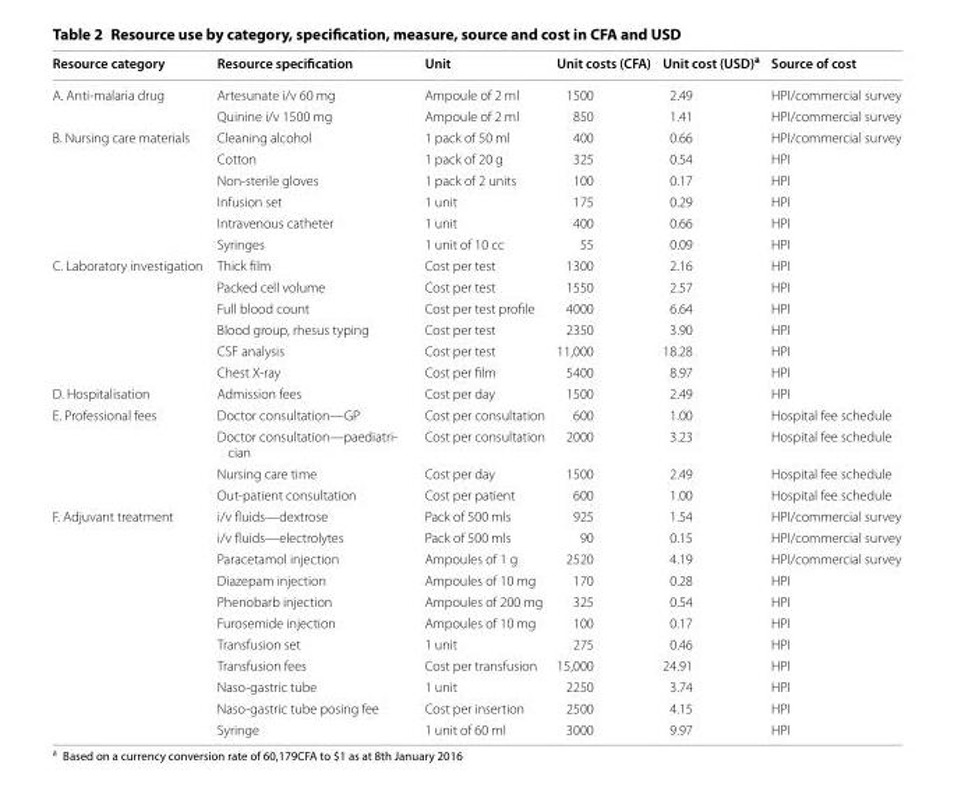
<table><thead><tr><td>Resource category</td><td>Resource specification</td><td>Unit</td><td>Unit costs (CFA)</td><td>Unit cost (USD)<sup>a</sup></td><td>Source of cost</td></tr></thead><tbody><tr><td rowspan="2">A. Anti-malaria drug</td><td>Artesunate i/v 60 mg</td><td>Ampoule of 2 ml</td><td>1500</td><td>2.49</td><td>HPI/commercial survey</td></tr><tr><td>Quinine i/v 1500 mg</td><td>Ampoule of 2 ml</td><td>850</td><td>1.41</td><td>HPI/commercial survey</td></tr><tr><td rowspan="6">B. Nursing care materials</td><td>Cleaning alcohol</td><td>1 pack of 50 ml</td><td>400</td><td>0.66</td><td>HPI/commercial survey</td></tr><tr><td>Cotton</td><td>1 pack of 20 g</td><td>325</td><td>0.54</td><td>HPI</td></tr><tr><td>Non-sterile gloves</td><td>1 pack of 2 units</td><td>100</td><td>0.17</td><td>HPI</td></tr><tr><td>Infusion set</td><td>1 unit</td><td>175</td><td>0.29</td><td>HPI</td></tr><tr><td>Intravenous catheter</td><td>1 unit</td><td>400</td><td>0.66</td><td>HPI</td></tr><tr><td>Syringes</td><td>1 unit of 10 cc</td><td>55</td><td>0.09</td><td>HPI</td></tr><tr><td rowspan="6">C. Laboratory investigation</td><td>Thick film</td><td>Cost per test</td><td>1300</td><td>2.16</td><td>HPI</td></tr><tr><td>Packed cell volume</td><td>Cost per test</td><td>1550</td><td>2.57</td><td>HPI</td></tr><tr><td>Full blood count</td><td>Cost per test profile</td><td>4000</td><td>6.64</td><td>HPI</td></tr><tr><td>Blood group, rhesus typing</td><td>Cost per test</td><td>2350</td><td>3.90</td><td>HPI</td></tr><tr><td>CSF analysis</td><td>Cost per test</td><td>11,000</td><td>18.28</td><td>HPI</td></tr><tr><td>Chest X-ray</td><td>Cost per film</td><td>5400</td><td>8.97</td><td>HPI</td></tr><tr><td>D. Hospitalisation</td><td>Admission fees</td><td>Cost per day</td><td>1500</td><td>2.49</td><td>HPI</td></tr><tr><td rowspan="4">E. Professional fees</td><td>Doctor consultation—GP</td><td>Cost per consultation</td><td>600</td><td>1.00</td><td>Hospital fee schedule</td></tr><tr><td>Doctor consultation—paediatri- cian</td><td>Cost per consultation</td><td>2000</td><td>3.23</td><td>Hospital fee schedule</td></tr><tr><td>Nursing care time</td><td>Cost per day</td><td>1500</td><td>2.49</td><td>Hospital fee schedule</td></tr><tr><td>Out-patient consultation</td><td>Cost per patient</td><td>600</td><td>1.00</td><td>Hospital fee schedule</td></tr><tr><td rowspan="11">F. Adjuvant treatment</td><td>i/v fluids—dextrose</td><td>Pack of 500 mls</td><td>925</td><td>1.54</td><td>HPI/commercial survey</td></tr><tr><td>i/v fluids—electrolytes</td><td>Pack of 500 mls</td><td>90</td><td>0.15</td><td>HPI/commercial survey</td></tr><tr><td>Paracetamol injection</td><td>Ampoules of 1 g</td><td>2520</td><td>4.19</td><td>HPI/commercial survey</td></tr><tr><td>Diazepam injection</td><td>Ampoules of 10 mg</td><td>170</td><td>0.28</td><td>HPI</td></tr><tr><td>Phenobarb injection</td><td>Ampoules of 200 mg</td><td>325</td><td>0.54</td><td>HPI</td></tr><tr><td>Furosemide injection</td><td>Ampoules of 10 mg</td><td>100</td><td>0.17</td><td>HPI</td></tr><tr><td>Transfusion set</td><td>1 unit</td><td>275</td><td>0.46</td><td>HPI</td></tr><tr><td>Transfusion fees</td><td>Cost per transfusion</td><td>15,000</td><td>24.91</td><td>HPI</td></tr><tr><td>Naso-gastric tube</td><td>1 unit</td><td>2250</td><td>3.74</td><td>HPI</td></tr><tr><td>Naso-gastric tube posing fee</td><td>Cost per insertion</td><td>2500</td><td>4.15</td><td>HPI</td></tr><tr><td>Syringe</td><td>1 unit of 60 ml</td><td>3000</td><td>9.97</td><td>HPI</td></tr></tbody></table>